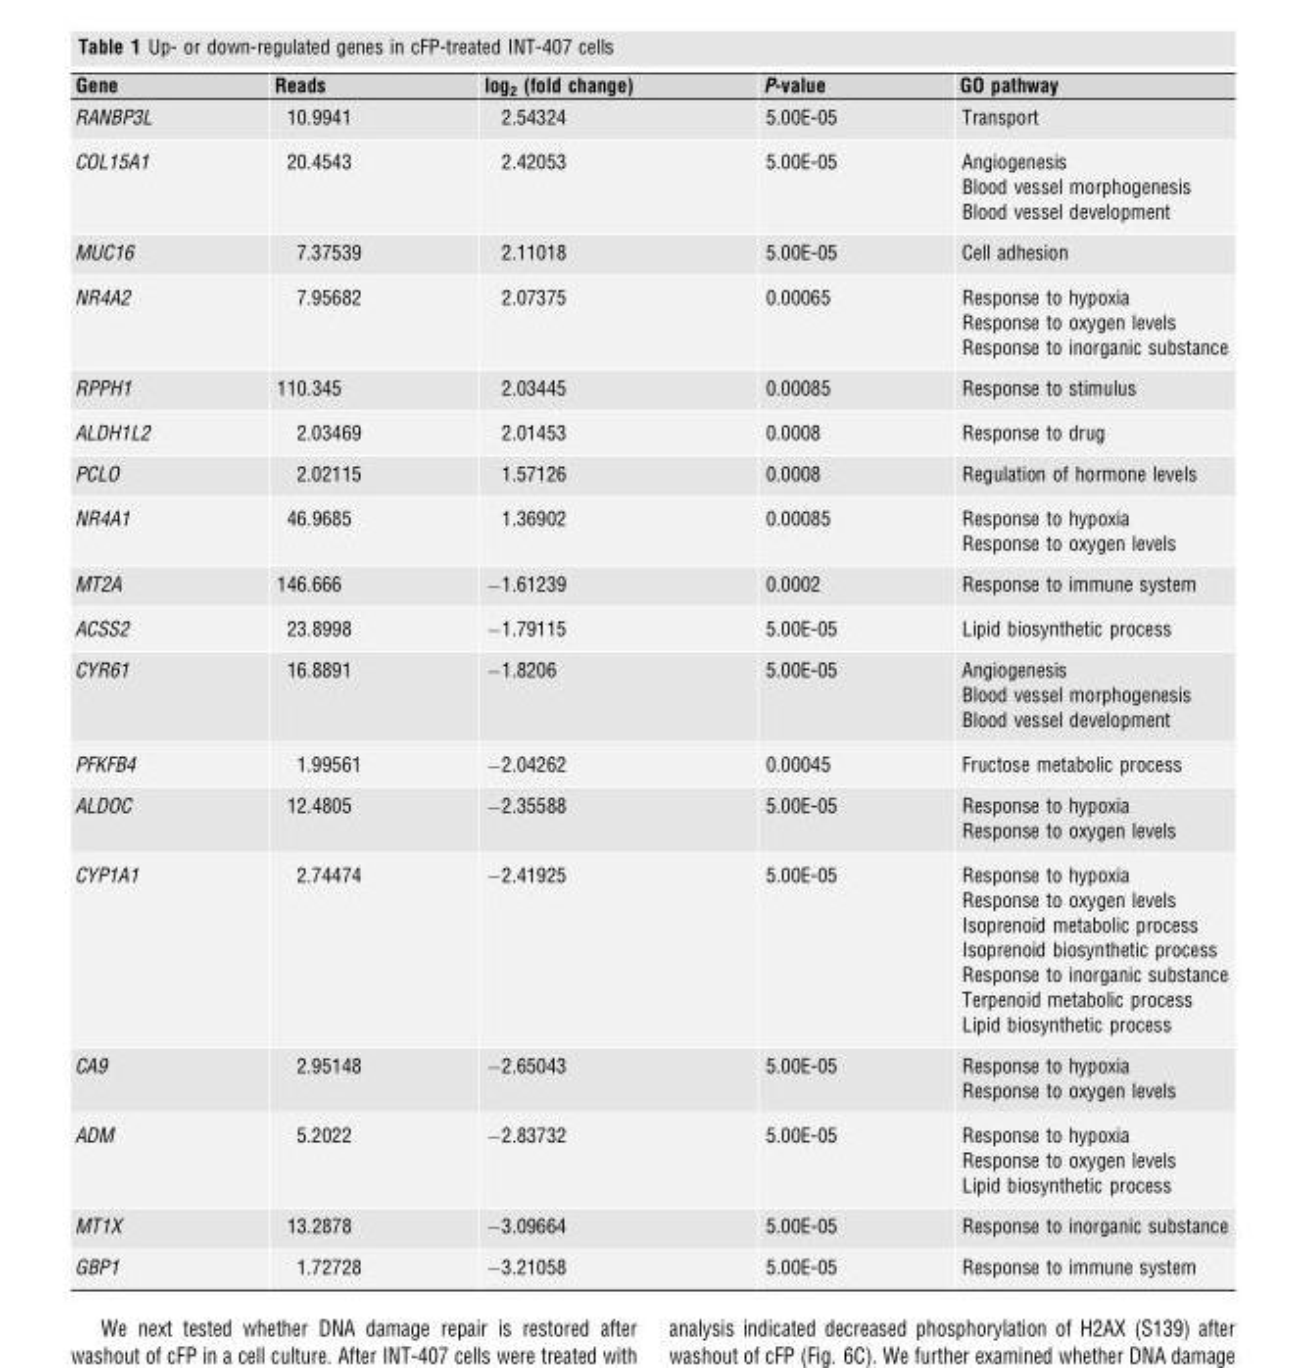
<table><thead><tr><td>Gene</td><td>Reads</td><td>log<sub>2</sub> (fold change)</td><td>P-value</td><td>GO pathway</td></tr></thead><tbody><tr><td>RANBP3L</td><td>10.9941</td><td>2.54324</td><td>5.00E-05</td><td>Transport</td></tr><tr><td>COL15A1</td><td>20.4543</td><td>2.42053</td><td>5.00E-05</td><td>Angiogenesis Blood vessel morphogenesis Blood vessel development</td></tr><tr><td>MUC16</td><td>7.37539</td><td>2.11018</td><td>5.00E-05</td><td>Cell adhesion</td></tr><tr><td>NR4A2</td><td>7.95682</td><td>2.07375</td><td>0.00065</td><td>Response to hypoxia Response to oxygen levels Response to inorganic substance</td></tr><tr><td>RPPH1</td><td>110.345</td><td>2.03445</td><td>0.00085</td><td>Response to stimulus</td></tr><tr><td>ALDH1L2</td><td>2.03469</td><td>2.01453</td><td>0.0008</td><td>Response to drug</td></tr><tr><td>PCLO</td><td>2.02115</td><td>1.57126</td><td>0.0008</td><td>Regulation of hormone levels</td></tr><tr><td>NR4A1</td><td>46.9685</td><td>1.36902</td><td>0.00085</td><td>Response to hypoxia Response to oxygen levels</td></tr><tr><td>MT2A</td><td>146.666</td><td>−1.61239</td><td>0.0002</td><td>Response to immune system</td></tr><tr><td>ACSS2</td><td>23.8998</td><td>−1.79115</td><td>5.00E-05</td><td>Lipid biosynthetic process</td></tr><tr><td>CYR61</td><td>16.8891</td><td>−1.8206</td><td>5.00E-05</td><td>Angiogenesis Blood vessel morphogenesis Blood vessel development</td></tr><tr><td>PFKFB4</td><td>1.99561</td><td>−2.04262</td><td>0.00045</td><td>Fructose metabolic process</td></tr><tr><td>ALDOC</td><td>12.4805</td><td>−2.35588</td><td>5.00E-05</td><td>Response to hypoxia Response to oxygen levels</td></tr><tr><td>CYP1A1</td><td>2.74474</td><td>−2.41925</td><td>5.00E-05</td><td>Response to hypoxia Response to oxygen levels Isoprenoid metabolic process Isoprenoid biosynthetic process Response to inorganic substance Terpenoid metabolic process Lipid biosynthetic process</td></tr><tr><td>CA9</td><td>2.95148</td><td>−2.65043</td><td>5.00E-05</td><td>Response to hypoxia Response to oxygen levels</td></tr><tr><td>ADM</td><td>5.2022</td><td>−2.83732</td><td>5.00E-05</td><td>Response to hypoxia Response to oxygen levels Lipid biosynthetic process</td></tr><tr><td>MT1X</td><td>13.2878</td><td>−3.09664</td><td>5.00E-05</td><td>Response to inorganic substance</td></tr><tr><td>GBP1</td><td>1.72728</td><td>−3.21058</td><td>5.00E-05</td><td>Response to immune system</td></tr></tbody></table>